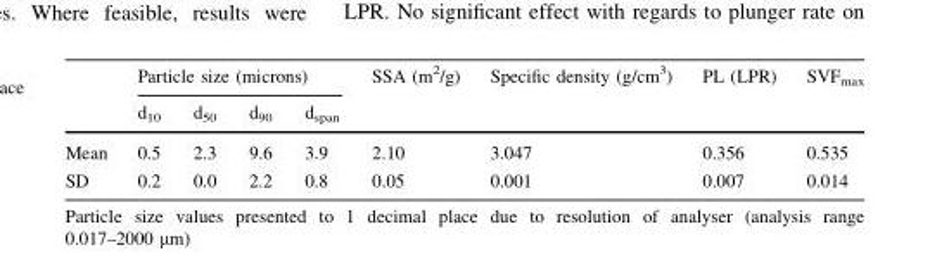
<table><thead><tr><td rowspan="2"></td><td colspan="4">Particle size (microns)</td><td rowspan="2">SSA (m<sup>2</sup>/g)</td><td rowspan="2">Specific density (g/cm<sup>3</sup>)</td><td rowspan="2">PL (LPR)</td><td rowspan="2">SVF<sub>max</sub></td></tr><tr><td>d<sub>10</sub></td><td>d<sub>50</sub></td><td>d<sub>90</sub></td><td>d<sub>span</sub></td></tr></thead><tbody><tr><td>Mean</td><td>0.5</td><td>2.3</td><td>9.6</td><td>3.9</td><td>2.10</td><td>3.047</td><td>0.356</td><td>0.535</td></tr><tr><td>SD</td><td>0.2</td><td>0.0</td><td>2.2</td><td>0.8</td><td>0.05</td><td>0.001</td><td>0.007</td><td>0.014</td></tr></tbody></table>